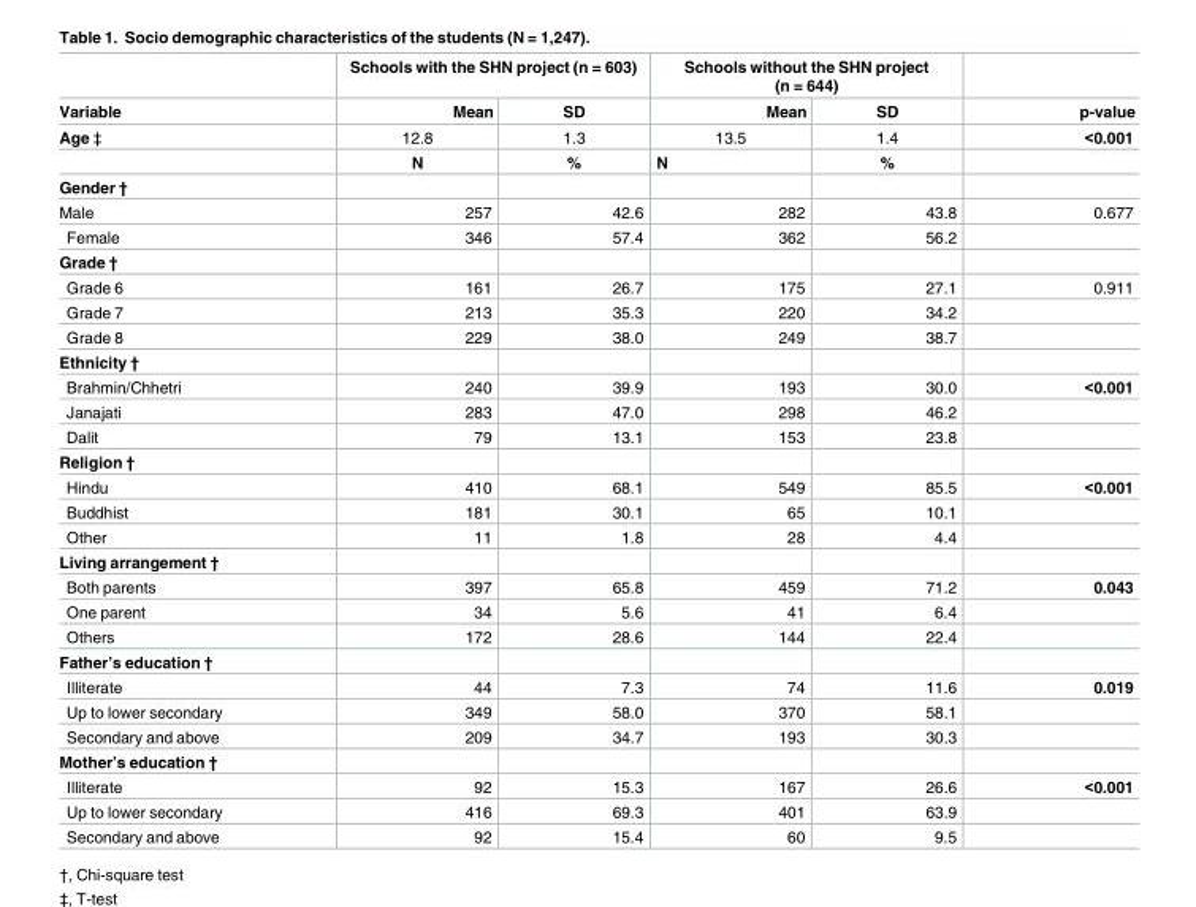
<table><thead><tr><td rowspan="2">Variable</td><td colspan="2">Schools with the SHN project (n = 603)</td><td colspan="2">Schools without the SHN project (n = 644)</td><td rowspan="2">p-value</td></tr><tr><td>Mean</td><td>SD</td><td>Mean</td><td>SD</td></tr></thead><tbody><tr><td rowspan="2">Age ‡</td><td>12.8</td><td>1.3</td><td>13.5</td><td>1.4</td><td>&lt;0.001</td></tr><tr><td>N</td><td>%</td><td>N</td><td>%</td><td></td></tr><tr><td colspan="6">Gender †</td></tr><tr><td>Male</td><td>257</td><td>42.6</td><td>282</td><td>43.8</td><td>0.677</td></tr><tr><td>Female</td><td>346</td><td>57.4</td><td>362</td><td>56.2</td><td></td></tr><tr><td colspan="6">Grade †</td></tr><tr><td>Grade 6</td><td>161</td><td>26.7</td><td>175</td><td>27.1</td><td>0.911</td></tr><tr><td>Grade 7</td><td>213</td><td>35.3</td><td>220</td><td>34.2</td><td></td></tr><tr><td>Grade 8</td><td>229</td><td>38.0</td><td>249</td><td>38.7</td><td></td></tr><tr><td colspan="6">Ethnicity †</td></tr><tr><td>Brahmin/Chhetri</td><td>240</td><td>39.9</td><td>193</td><td>30.0</td><td>&lt;0.001</td></tr><tr><td>Janajati</td><td>283</td><td>47.0</td><td>298</td><td>46.2</td><td></td></tr><tr><td>Dalit</td><td>79</td><td>13.1</td><td>153</td><td>23.8</td><td></td></tr><tr><td colspan="6">Religion †</td></tr><tr><td>Hindu</td><td>410</td><td>68.1</td><td>549</td><td>85.5</td><td>&lt;0.001</td></tr><tr><td>Buddhist</td><td>181</td><td>30.1</td><td>65</td><td>10.1</td><td></td></tr><tr><td>Other</td><td>11</td><td>1.8</td><td>28</td><td>4.4</td><td></td></tr><tr><td colspan="6">Living arrangement †</td></tr><tr><td>Both parents</td><td>397</td><td>65.8</td><td>459</td><td>71.2</td><td>0.043</td></tr><tr><td>One parent</td><td>34</td><td>5.6</td><td>41</td><td>6.4</td><td></td></tr><tr><td>Others</td><td>172</td><td>28.6</td><td>144</td><td>22.4</td><td></td></tr><tr><td colspan="6">Father’s education †</td></tr><tr><td>Illiterate</td><td>44</td><td>7.3</td><td>74</td><td>11.6</td><td>0.019</td></tr><tr><td>Up to lower secondary</td><td>349</td><td>58.0</td><td>370</td><td>58.1</td><td></td></tr><tr><td>Secondary and above</td><td>209</td><td>34.7</td><td>193</td><td>30.3</td><td></td></tr><tr><td colspan="6">Mother’s education †</td></tr><tr><td>Illiterate</td><td>92</td><td>15.3</td><td>167</td><td>26.6</td><td>&lt;0.001</td></tr><tr><td>Up to lower secondary</td><td>416</td><td>69.3</td><td>401</td><td>63.9</td><td></td></tr><tr><td>Secondary and above</td><td>92</td><td>15.4</td><td>60</td><td>9.5</td><td></td></tr></tbody></table>